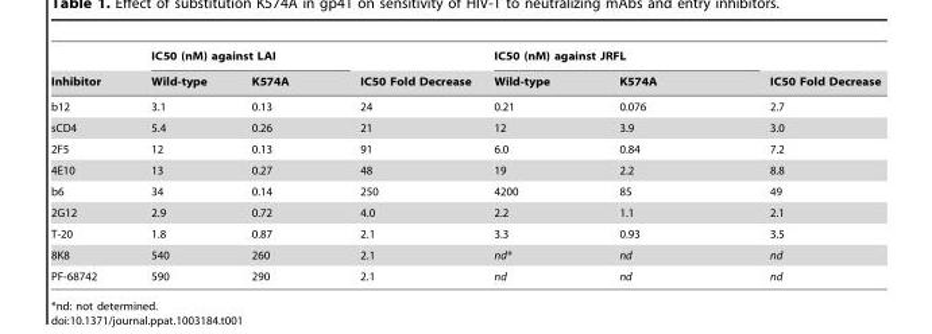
<table><thead><tr><td rowspan="2">Inhibitor</td><td colspan="2">IC50 (nM) against LAI</td><td rowspan="2">IC50 Fold Decrease</td><td colspan="2">IC50 (nM) against JRFL</td><td rowspan="2">IC50 Fold Decrease</td></tr><tr><td>Wild-type</td><td>K574A</td><td>Wild-type</td><td>K574A</td></tr></thead><tbody><tr><td>b12</td><td>3.1</td><td>0.13</td><td>24</td><td>0.21</td><td>0.076</td><td>2.7</td></tr><tr><td>sCD4</td><td>5.4</td><td>0.26</td><td>21</td><td>12</td><td>3.9</td><td>3.0</td></tr><tr><td>2F5</td><td>12</td><td>0.13</td><td>91</td><td>6.0</td><td>0.84</td><td>7.2</td></tr><tr><td>4E10</td><td>13</td><td>0.27</td><td>48</td><td>19</td><td>2.2</td><td>8.8</td></tr><tr><td>b6</td><td>34</td><td>0.14</td><td>250</td><td>4200</td><td>85</td><td>49</td></tr><tr><td>2G12</td><td>2.9</td><td>0.72</td><td>4.0</td><td>2.2</td><td>1.1</td><td>2.1</td></tr><tr><td>T-20</td><td>1.8</td><td>0.87</td><td>2.1</td><td>3.3</td><td>0.93</td><td>3.5</td></tr><tr><td>8K8</td><td>540</td><td>260</td><td>2.1</td><td>nd*</td><td>nd</td><td>nd</td></tr><tr><td>PF-68742</td><td>590</td><td>290</td><td>2.1</td><td>nd</td><td>nd</td><td>nd</td></tr></tbody></table>